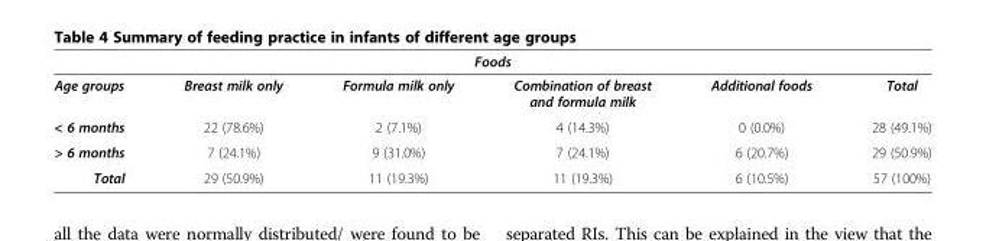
<table><thead><tr><td colspan="6">Foods</td></tr><tr><td>Age groups</td><td>Breast milk only</td><td>Formula milk only</td><td>Combination of breast and formula milk</td><td>Additional foods</td><td>Total</td></tr></thead><tbody><tr><td>&lt; 6 months</td><td>22 (78.6%)</td><td>2 (7.1%)</td><td>4 (14.3%)</td><td>0 (0.0%)</td><td>28 (49.1%)</td></tr><tr><td>&gt; 6 months</td><td>7 (24.1%)</td><td>9 (31.0%)</td><td>7 (24.1%)</td><td>6 (20.7%)</td><td>29 (50.9%)</td></tr><tr><td>Total</td><td>29 (50.9%)</td><td>11 (19.3%)</td><td>11 (19.3%)</td><td>6 (10.5%)</td><td>57 (100%)</td></tr></tbody></table>